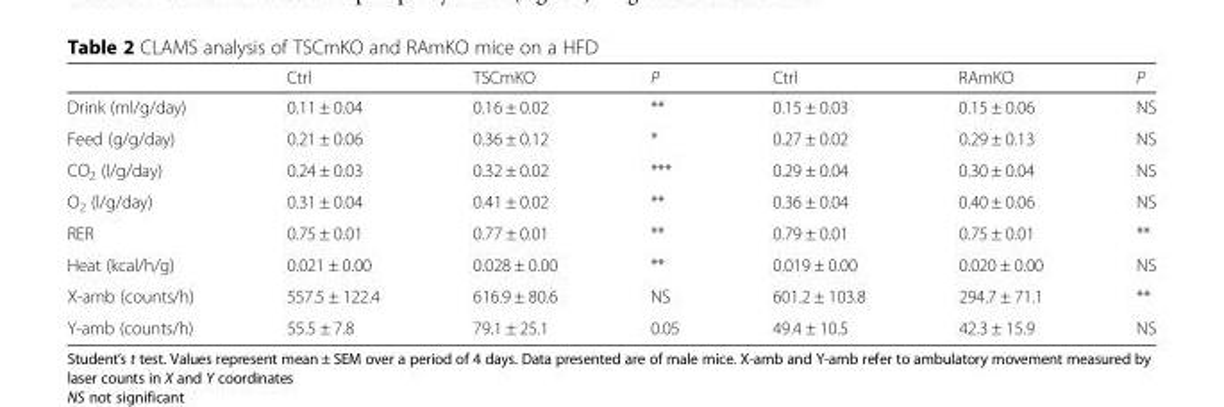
<table><thead><tr><td></td><td>Ctrl</td><td>TSCmKO</td><td>P</td><td>Ctrl</td><td>RAmKO</td><td>P</td></tr></thead><tbody><tr><td>Drink (ml/g/day)</td><td>0.11 ± 0.04</td><td>0.16 ± 0.02</td><td>**</td><td>0.15 ± 0.03</td><td>0.15 ± 0.06</td><td>NS</td></tr><tr><td>Feed (g/g/day)</td><td>0.21 ± 0.06</td><td>0.36 ± 0.12</td><td>*</td><td>0.27 ± 0.02</td><td>0.29 ± 0.13</td><td>NS</td></tr><tr><td>CO<sub>2</sub> (l/g/day)</td><td>0.24 ± 0.03</td><td>0.32 ± 0.02</td><td>***</td><td>0.29 ± 0.04</td><td>0.30 ± 0.04</td><td>NS</td></tr><tr><td>O<sub>2</sub> (l/g/day)</td><td>0.31 ± 0.04</td><td>0.41 ± 0.02</td><td>**</td><td>0.36 ± 0.04</td><td>0.40 ± 0.06</td><td>NS</td></tr><tr><td>RER</td><td>0.75 ± 0.01</td><td>0.77 ± 0.01</td><td>**</td><td>0.79 ± 0.01</td><td>0.75 ± 0.01</td><td>**</td></tr><tr><td>Heat (kcal/h/g)</td><td>0.021 ± 0.00</td><td>0.028 ± 0.00</td><td>**</td><td>0.019 ± 0.00</td><td>0.020 ± 0.00</td><td>NS</td></tr><tr><td>X-amb (counts/h)</td><td>557.5 ± 122.4</td><td>616.9 ± 80.6</td><td>NS</td><td>601.2 ± 103.8</td><td>294.7 ± 71.1</td><td>**</td></tr><tr><td>Y-amb (counts/h)</td><td>55.5 ± 7.8</td><td>79.1 ± 25.1</td><td>0.05</td><td>49.4 ± 10.5</td><td>42.3 ± 15.9</td><td>NS</td></tr></tbody></table>